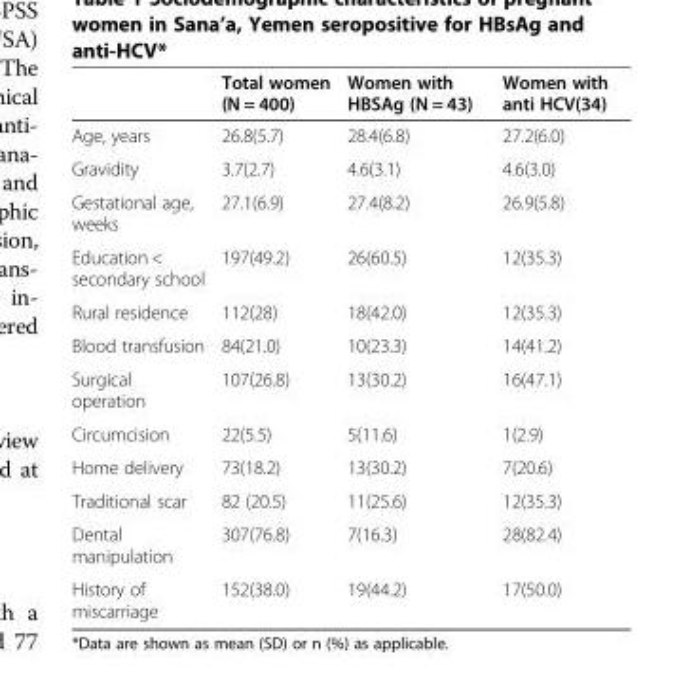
<table><thead><tr><td></td><td>Total women (N = 400)</td><td>Women with HBSAg (N = 43)</td><td>Women with anti HCV(34)</td></tr></thead><tbody><tr><td>Age, years</td><td>26.8(5.7)</td><td>28.4(6.8)</td><td>27.2(6.0)</td></tr><tr><td>Gravidity</td><td>3.7(2.7)</td><td>4.6(3.1)</td><td>4.6(3.0)</td></tr><tr><td>Gestational age, weeks</td><td>27.1(6.9)</td><td>27.4(8.2)</td><td>26.9(5.8)</td></tr><tr><td>Education &lt; secondary school</td><td>197(49.2)</td><td>26(60.5)</td><td>12(35.3)</td></tr><tr><td>Rural residence</td><td>112(28)</td><td>18(42.0)</td><td>12(35.3)</td></tr><tr><td>Blood transfusion</td><td>84(21.0)</td><td>10(23.3)</td><td>14(41.2)</td></tr><tr><td>Surgical operation</td><td>107(26.8)</td><td>13(30.2)</td><td>16(47.1)</td></tr><tr><td>Circumcision</td><td>22(5.5)</td><td>5(11.6)</td><td>1(2.9)</td></tr><tr><td>Home delivery</td><td>73(18.2)</td><td>13(30.2)</td><td>7(20.6)</td></tr><tr><td>Traditional scar</td><td>82 (20.5)</td><td>11(25.6)</td><td>12(35.3)</td></tr><tr><td>Dental manipulation</td><td>307(76.8)</td><td>7(16.3)</td><td>28(82.4)</td></tr><tr><td>History of miscarriage</td><td>152(38.0)</td><td>19(44.2)</td><td>17(50.0)</td></tr></tbody></table>